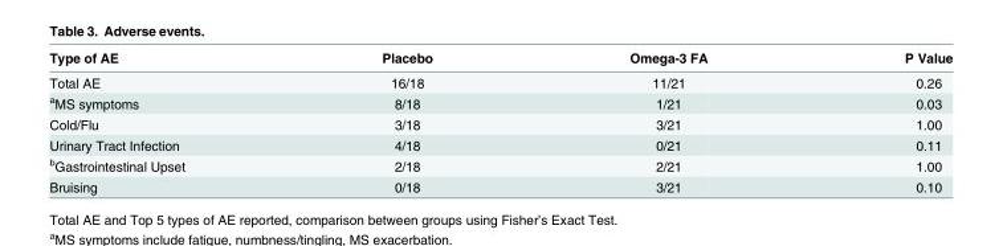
<table><thead><tr><td>Type of AE</td><td>Placebo</td><td>Omega-3 FA</td><td>P Value</td></tr></thead><tbody><tr><td>Total AE</td><td>16/18</td><td>11/21</td><td>0.26</td></tr><tr><td><sup>a</sup>MS symptoms</td><td>8/18</td><td>1/21</td><td>0.03</td></tr><tr><td>Cold/Flu</td><td>3/18</td><td>3/21</td><td>1.00</td></tr><tr><td>Urinary Tract Infection</td><td>4/18</td><td>0/21</td><td>0.11</td></tr><tr><td><sup>b</sup>Gastrointestinal Upset</td><td>2/18</td><td>2/21</td><td>1.00</td></tr><tr><td>Bruising</td><td>0/18</td><td>3/21</td><td>0.10</td></tr></tbody></table>